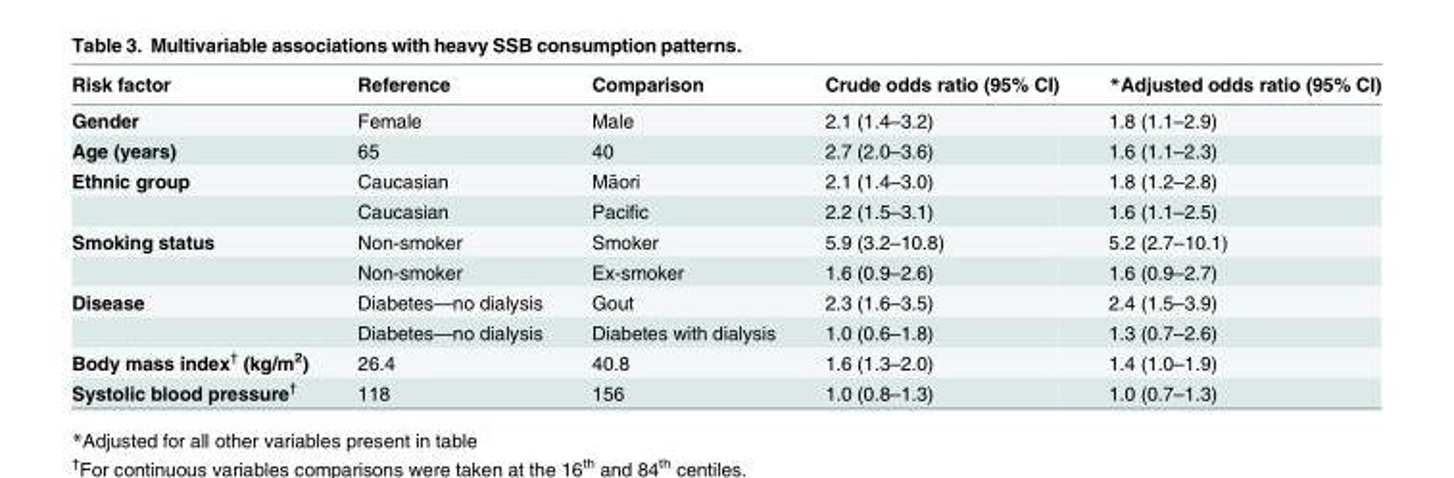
<table><thead><tr><td>Risk factor</td><td>Reference</td><td>Comparison</td><td>Crude odds ratio (95% CI)</td><td>*Adjusted odds ratio (95% CI)</td></tr></thead><tbody><tr><td>Gender</td><td>Female</td><td>Male</td><td>2.1 (1.4–3.2)</td><td>1.8 (1.1–2.9)</td></tr><tr><td>Age (years)</td><td>65</td><td>40</td><td>2.7 (2.0–3.6)</td><td>1.6 (1.1–2.3)</td></tr><tr><td rowspan="2">Ethnic group</td><td>Caucasian</td><td>Māori</td><td>2.1 (1.4–3.0)</td><td>1.8 (1.2–2.8)</td></tr><tr><td>Caucasian</td><td>Pacific</td><td>2.2 (1.5–3.1)</td><td>1.6 (1.1–2.5)</td></tr><tr><td rowspan="2">Smoking status</td><td>Non-smoker</td><td>Smoker</td><td>5.9 (3.2–10.8)</td><td>5.2 (2.7–10.1)</td></tr><tr><td>Non-smoker</td><td>Ex-smoker</td><td>1.6 (0.9–2.6)</td><td>1.6 (0.9–2.7)</td></tr><tr><td rowspan="2">Disease</td><td>Diabetes—no dialysis</td><td>Gout</td><td>2.3 (1.6–3.5)</td><td>2.4 (1.5–3.9)</td></tr><tr><td>Diabetes—no dialysis</td><td>Diabetes with dialysis</td><td>1.0 (0.6–1.8)</td><td>1.3 (0.7–2.6)</td></tr><tr><td>Body mass index<sup>†</sup> (kg/m<sup>2</sup>)</td><td>26.4</td><td>40.8</td><td>1.6 (1.3–2.0)</td><td>1.4 (1.0–1.9)</td></tr><tr><td>Systolic blood pressure<sup>†</sup></td><td>118</td><td>156</td><td>1.0 (0.8–1.3)</td><td>1.0 (0.7–1.3)</td></tr></tbody></table>